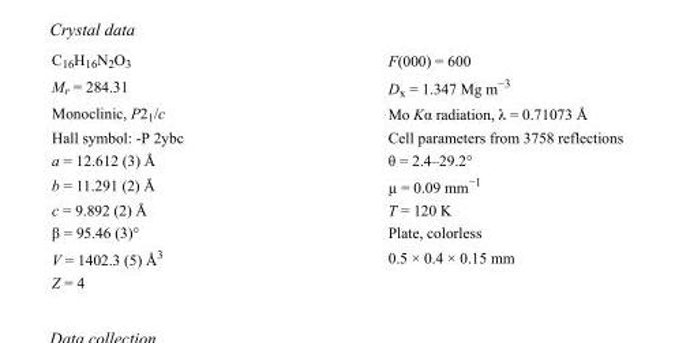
<table><tbody><tr><td>C<sub>16</sub>H<sub>16</sub>N<sub>2</sub>O<sub>3</sub></td><td>F(000) = 600</td></tr><tr><td>M<sub>r</sub> = 284.31</td><td>D<sub>x</sub> = 1.347 Mg m<sup>−3</sup></td></tr><tr><td>Monoclinic, P2<sub>1</sub>/c</td><td>Mo Kα radiation, λ = 0.71073 Å</td></tr><tr><td>Hall symbol: -P 2ybc</td><td>Cell parameters from 3758 reflections</td></tr><tr><td>a = 12.612 (3) Å</td><td>θ = 2.4–29.2°</td></tr><tr><td>b = 11.291 (2) Å</td><td>µ = 0.09 mm<sup>−1</sup></td></tr><tr><td>c = 9.892 (2) Å</td><td>T = 120 K</td></tr><tr><td>β = 95.46 (3)°</td><td>Plate, colorless</td></tr><tr><td>V = 1402.3 (5) Å<sup>3</sup></td><td>0.5 × 0.4 × 0.15 mm</td></tr><tr><td>Z = 4</td><td></td></tr></tbody></table>